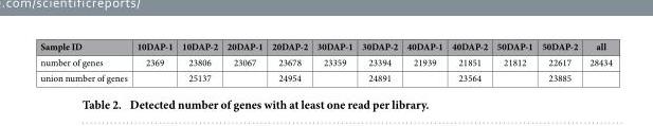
<table><thead><tr><td>Sample ID</td><td>10DAP-1</td><td>10DAP-2</td><td>20DAP-1</td><td>20DAP-2</td><td>30DAP-1</td><td>30DAP-2</td><td>40DAP-1</td><td>40DAP-2</td><td>50DAP-1</td><td>50DAP-2</td><td>all</td></tr></thead><tbody><tr><td>number of genes</td><td>2369</td><td>23806</td><td>23067</td><td>23678</td><td>23359</td><td>23394</td><td>21939</td><td>21851</td><td>21812</td><td>22617</td><td>28434</td></tr><tr><td>union number of genes</td><td></td><td>25137</td><td></td><td>24954</td><td></td><td>24891</td><td></td><td>23564</td><td></td><td>23885</td><td></td></tr></tbody></table>